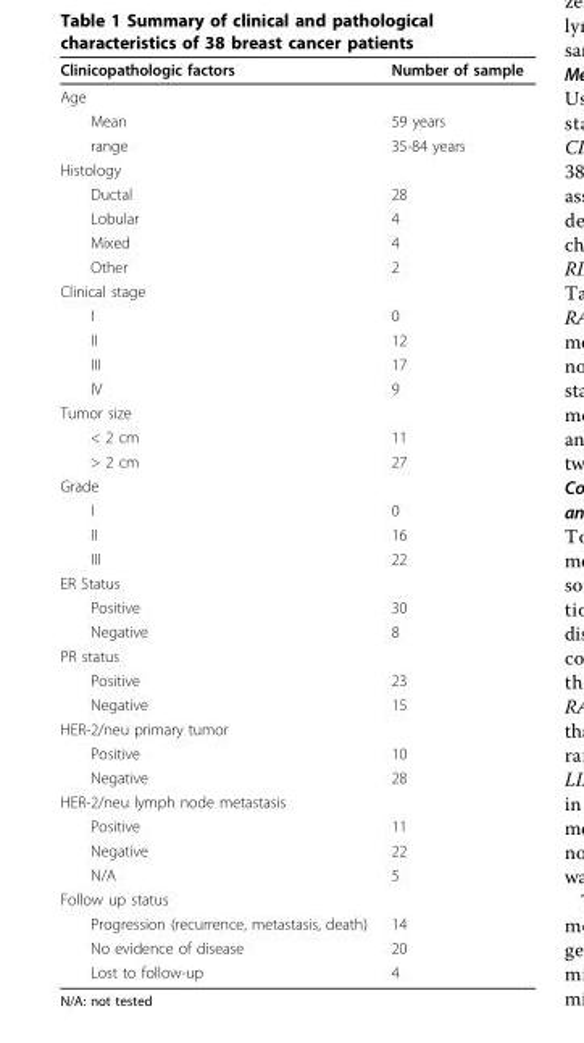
<table><thead><tr><td>Clinicopathologic factors</td><td>Number of sample</td></tr></thead><tbody><tr><td colspan="2">Age</td></tr><tr><td>Mean</td><td>59 years</td></tr><tr><td>range</td><td>35-84 years</td></tr><tr><td colspan="2">Histology</td></tr><tr><td>Ductal</td><td>28</td></tr><tr><td>Lobular</td><td>4</td></tr><tr><td>Mixed</td><td>4</td></tr><tr><td>Other</td><td>2</td></tr><tr><td colspan="2">Clinical stage</td></tr><tr><td>I</td><td>0</td></tr><tr><td>II</td><td>12</td></tr><tr><td>III</td><td>17</td></tr><tr><td>IV</td><td>9</td></tr><tr><td colspan="2">Tumor size</td></tr><tr><td>&lt; 2 cm</td><td>11</td></tr><tr><td>&gt; 2 cm</td><td>27</td></tr><tr><td colspan="2">Grade</td></tr><tr><td>I</td><td>0</td></tr><tr><td>II</td><td>16</td></tr><tr><td>III</td><td>22</td></tr><tr><td colspan="2">ER Status</td></tr><tr><td>Positive</td><td>30</td></tr><tr><td>Negative</td><td>8</td></tr><tr><td colspan="2">PR status</td></tr><tr><td>Positive</td><td>23</td></tr><tr><td>Negative</td><td>15</td></tr><tr><td colspan="2">HER-2/neu primary tumor</td></tr><tr><td>Positive</td><td>10</td></tr><tr><td>Negative</td><td>28</td></tr><tr><td colspan="2">HER-2/neu lymph node metastasis</td></tr><tr><td>Positive</td><td>11</td></tr><tr><td>Negative</td><td>22</td></tr><tr><td>N/A</td><td>5</td></tr><tr><td colspan="2">Follow up status</td></tr><tr><td>Progression (recurrence, metastasis, death)</td><td>14</td></tr><tr><td>No evidence of disease</td><td>20</td></tr><tr><td>Lost to follow-up</td><td>4</td></tr></tbody></table>